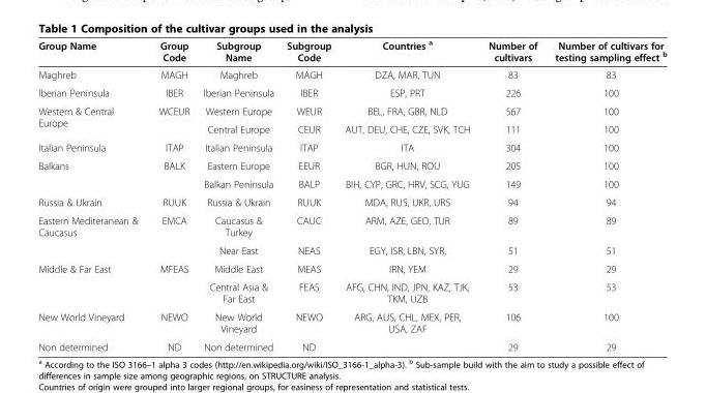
<table><thead><tr><td>Group Name</td><td>Group Code</td><td>Subgroup Name</td><td>Subgroup Code</td><td>Countries <sup>a</sup></td><td>Number of cultivars</td><td>Number of cultivars for testing sampling effect <sup>b</sup></td></tr></thead><tbody><tr><td>Maghreb</td><td>MAGH</td><td>Maghreb</td><td>MAGH</td><td>DZA, MAR, TUN</td><td>83</td><td>83</td></tr><tr><td>Iberian Peninsula</td><td>IBER</td><td>Iberian Peninsula</td><td>IBER</td><td>ESP, PRT</td><td>226</td><td>100</td></tr><tr><td rowspan="2">Western &amp; Central Europe</td><td rowspan="2">WCEUR</td><td>Western Europe</td><td>WEUR</td><td>BEL, FRA, GBR, NLD</td><td>567</td><td>100</td></tr><tr><td>Central Europe</td><td>CEUR</td><td>AUT, DEU, CHE, CZE, SVK, TCH</td><td>111</td><td>100</td></tr><tr><td>Italian Peninsula</td><td>ITAP</td><td>Italian Peninsula</td><td>ITAP</td><td>ITA</td><td>304</td><td>100</td></tr><tr><td rowspan="2">Balkans</td><td rowspan="2">BALK</td><td>Eastern Europe</td><td>EEUR</td><td>BGR, HUN, ROU</td><td>205</td><td>100</td></tr><tr><td>Balkan Peninsula</td><td>BALP</td><td>BIH, CYP, GRC, HRV, SCG, YUG</td><td>149</td><td>100</td></tr><tr><td>Russia &amp; Ukrain</td><td>RUUK</td><td>Russia &amp; Ukrain</td><td>RUUK</td><td>MDA, RUS, UKR, URS</td><td>94</td><td>94</td></tr><tr><td rowspan="2">Eastern Mediteranean &amp; Caucasus</td><td rowspan="2">EMCA</td><td>Caucasus &amp; Turkey</td><td>CAUC</td><td>ARM, AZE, GEO, TUR</td><td>89</td><td>89</td></tr><tr><td>Near East</td><td>NEAS</td><td>EGY, ISR, LBN, SYR,</td><td>51</td><td>51</td></tr><tr><td rowspan="2">Middle &amp; Far East</td><td rowspan="2">MFEAS</td><td>Middle East</td><td>MEAS</td><td>IRN, YEM</td><td>29</td><td>29</td></tr><tr><td>Central Asia &amp; Far East</td><td>FEAS</td><td>AFG, CHN, IND, JPN, KAZ, TJK, TKM, UZB</td><td>53</td><td>53</td></tr><tr><td>New World Vineyard</td><td>NEWO</td><td>New World Vineyard</td><td>NEWO</td><td>ARG, AUS, CHL, MEX, PER, USA, ZAF</td><td>106</td><td>100</td></tr><tr><td>Non determined</td><td>ND</td><td>Non determined</td><td>ND</td><td></td><td>29</td><td>29</td></tr></tbody></table>